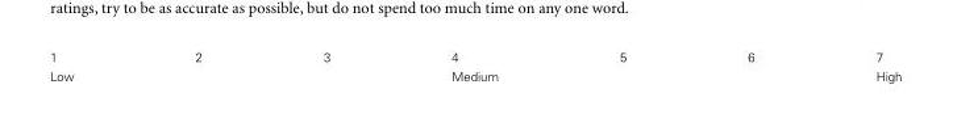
<table><tbody><tr><td>1</td><td>2</td><td>3</td><td>4</td><td>5</td><td>6</td><td>7</td></tr><tr><td>Low</td><td></td><td></td><td>Medium</td><td></td><td></td><td>High</td></tr></tbody></table>